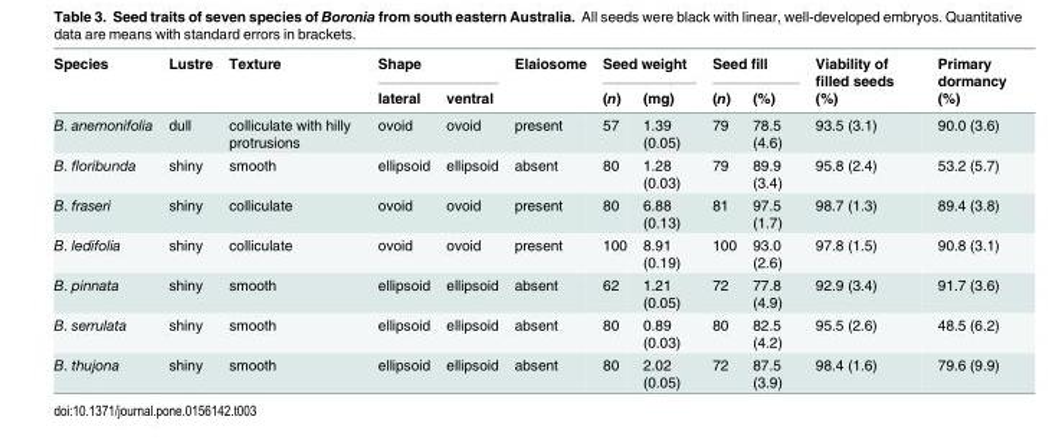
<table><thead><tr><td rowspan="2">Species</td><td rowspan="2">Lustre</td><td rowspan="2">Texture</td><td colspan="2">Shape</td><td rowspan="2">Elaiosome</td><td colspan="2">Seed weight</td><td colspan="2">Seed fill</td><td rowspan="2">Viability of filled seeds (%)</td><td rowspan="2">Primary dormancy (%)</td></tr><tr><td>lateral</td><td>ventral</td><td>(n)</td><td>(mg)</td><td>(n)</td><td>(%)</td></tr></thead><tbody><tr><td>B. anemonifolia</td><td>dull</td><td>colliculate with hilly protrusions</td><td>ovoid</td><td>ovoid</td><td>present</td><td>57</td><td>1.39 (0.05)</td><td>79</td><td>78.5 (4.6)</td><td>93.5 (3.1)</td><td>90.0 (3.6)</td></tr><tr><td>B. floribunda</td><td>shiny</td><td>smooth</td><td>ellipsoid</td><td>ellipsoid</td><td>absent</td><td>80</td><td>1.28 (0.03)</td><td>79</td><td>89.9 (3.4)</td><td>95.8 (2.4)</td><td>53.2 (5.7)</td></tr><tr><td>B. fraseri</td><td>shiny</td><td>colliculate</td><td>ovoid</td><td>ovoid</td><td>present</td><td>80</td><td>6.88 (0.13)</td><td>81</td><td>97.5 (1.7)</td><td>98.7 (1.3)</td><td>89.4 (3.8)</td></tr><tr><td>B. ledifolia</td><td>shiny</td><td>colliculate</td><td>ovoid</td><td>ovoid</td><td>present</td><td>100</td><td>8.91 (0.19)</td><td>100</td><td>93.0 (2.6)</td><td>97.8 (1.5)</td><td>90.8 (3.1)</td></tr><tr><td>B. pinnata</td><td>shiny</td><td>smooth</td><td>ellipsoid</td><td>ellipsoid</td><td>absent</td><td>62</td><td>1.21 (0.05)</td><td>72</td><td>77.8 (4.9)</td><td>92.9 (3.4)</td><td>91.7 (3.6)</td></tr><tr><td>B. serrulata</td><td>shiny</td><td>smooth</td><td>ellipsoid</td><td>ellipsoid</td><td>absent</td><td>80</td><td>0.89 (0.03)</td><td>80</td><td>82.5 (4.2)</td><td>95.5 (2.6)</td><td>48.5 (6.2)</td></tr><tr><td>B. thujona</td><td>shiny</td><td>smooth</td><td>ellipsoid</td><td>ellipsoid</td><td>absent</td><td>80</td><td>2.02 (0.05)</td><td>72</td><td>87.5 (3.9)</td><td>98.4 (1.6)</td><td>79.6 (9.9)</td></tr></tbody></table>